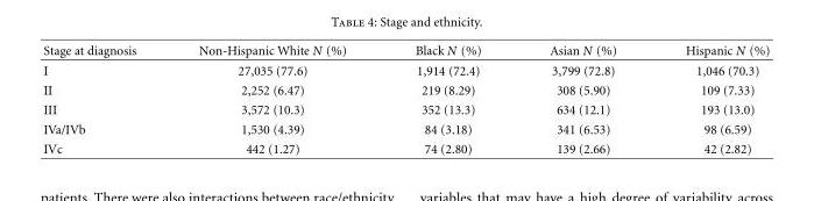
<table><thead><tr><td>Stage at diagnosis</td><td>Non-Hispanic White N (%)</td><td>Black N (%)</td><td>Asian N (%)</td><td>Hispanic N (%)</td></tr></thead><tbody><tr><td>I</td><td>27,035 (77.6)</td><td>1,914 (72.4)</td><td>3,799 (72.8)</td><td>1,046 (70.3)</td></tr><tr><td>II</td><td>2,252 (6.47)</td><td>219 (8.29)</td><td>308 (5.90)</td><td>109 (7.33)</td></tr><tr><td>III</td><td>3,572 (10.3)</td><td>352 (13.3)</td><td>634 (12.1)</td><td>193 (13.0)</td></tr><tr><td>IVa/IVb</td><td>1,530 (4.39)</td><td>84 (3.18)</td><td>341 (6.53)</td><td>98 (6.59)</td></tr><tr><td>IVc</td><td>442 (1.27)</td><td>74 (2.80)</td><td>139 (2.66)</td><td>42 (2.82)</td></tr></tbody></table>